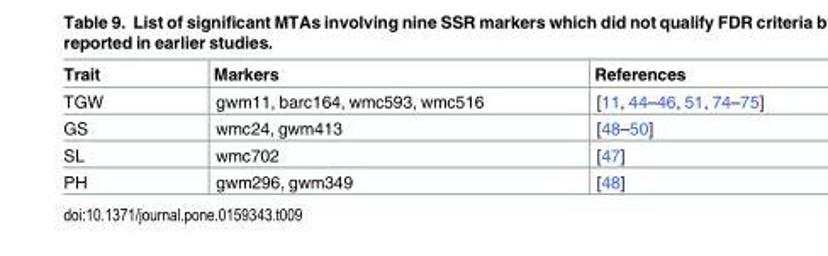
<table><thead><tr><td>Trait</td><td>Markers</td><td>References</td></tr></thead><tbody><tr><td>TGW</td><td>gwm11, barc164, wmc593, wmc516</td><td>[11, 44–46, 51, 74–75]</td></tr><tr><td>GS</td><td>wmc24, gwm413</td><td>[48–50]</td></tr><tr><td>SL</td><td>wmc702</td><td>[47]</td></tr><tr><td>PH</td><td>gwm296, gwm349</td><td>[48]</td></tr></tbody></table>